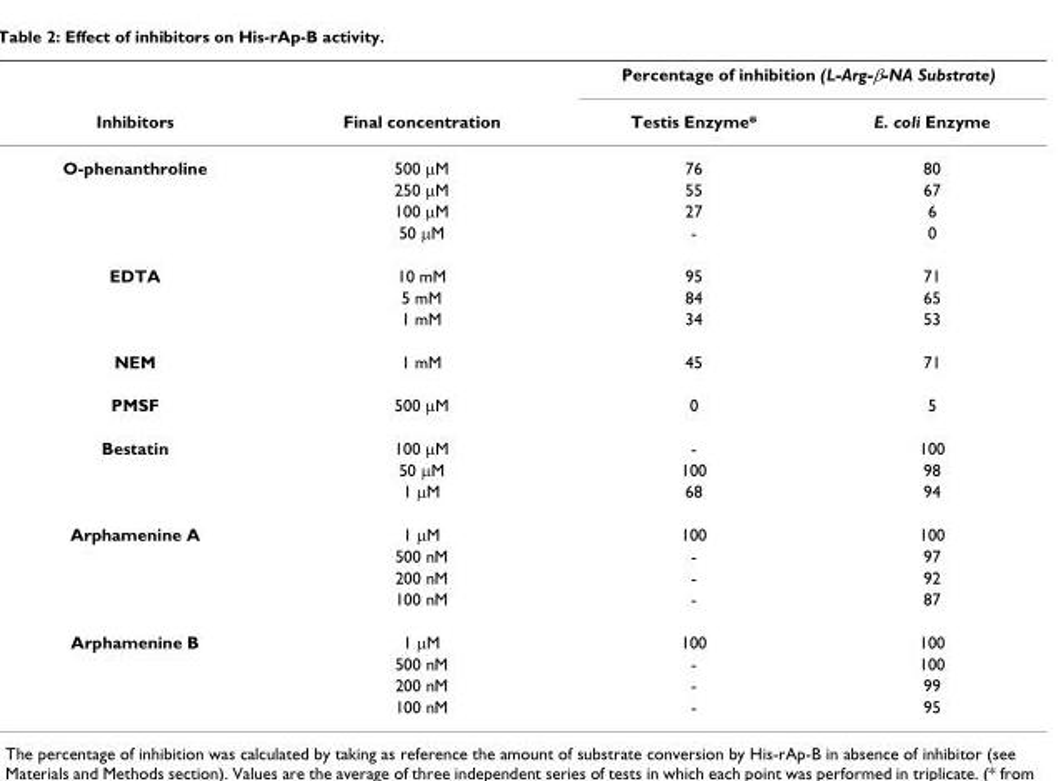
<table><thead><tr><td rowspan="2">Inhibitors</td><td rowspan="2">Final concentration</td><td colspan="2">Percentage of inhibition (L-Arg-β-NA Substrate)</td></tr><tr><td>Testis Enzyme*</td><td>E. coli Enzyme</td></tr></thead><tbody><tr><td rowspan="4">O-phenanthroline</td><td>500 µM</td><td>76</td><td>80</td></tr><tr><td>250 µM</td><td>55</td><td>67</td></tr><tr><td>100 µM</td><td>27</td><td>6</td></tr><tr><td>50 µM</td><td>-</td><td>0</td></tr><tr><td rowspan="3">EDTA</td><td>10 mM</td><td>95</td><td>71</td></tr><tr><td>5 mM</td><td>84</td><td>65</td></tr><tr><td>1 mM</td><td>34</td><td>53</td></tr><tr><td>NEM</td><td>1 mM</td><td>45</td><td>71</td></tr><tr><td>PMSF</td><td>500 µM</td><td>0</td><td>5</td></tr><tr><td rowspan="3">Bestatin</td><td>100 µM</td><td>-</td><td>100</td></tr><tr><td>50 µM</td><td>100</td><td>98</td></tr><tr><td>1 µM</td><td>68</td><td>94</td></tr><tr><td rowspan="4">Arphamenine A</td><td>1 µM</td><td>100</td><td>100</td></tr><tr><td>500 nM</td><td>-</td><td>97</td></tr><tr><td>200 nM</td><td>-</td><td>92</td></tr><tr><td>100 nM</td><td>-</td><td>87</td></tr><tr><td rowspan="4">Arphamenine B</td><td>1 µM</td><td>100</td><td>100</td></tr><tr><td>500 nM</td><td>-</td><td>100</td></tr><tr><td>200 nM</td><td>-</td><td>99</td></tr><tr><td>100 nM</td><td>-</td><td>95</td></tr></tbody></table>